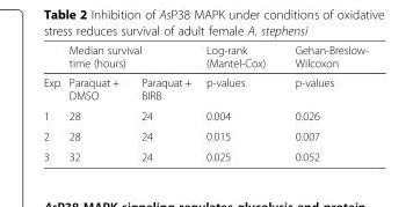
<table><thead><tr><td rowspan="2">Exp</td><td colspan="2">Median survival time (hours)</td><td rowspan="2">Log-rank (Mantel-Cox) p-values</td><td rowspan="2">Gehan-Breslow- Wilcoxon p-values</td></tr><tr><td>Paraquat + DMSO</td><td>Paraquat + BIRB</td></tr></thead><tbody><tr><td>1</td><td>28</td><td>24</td><td>0.004</td><td>0.026</td></tr><tr><td>2</td><td>28</td><td>24</td><td>0.015</td><td>0.007</td></tr><tr><td>3</td><td>32</td><td>24</td><td>0.025</td><td>0.052</td></tr></tbody></table>